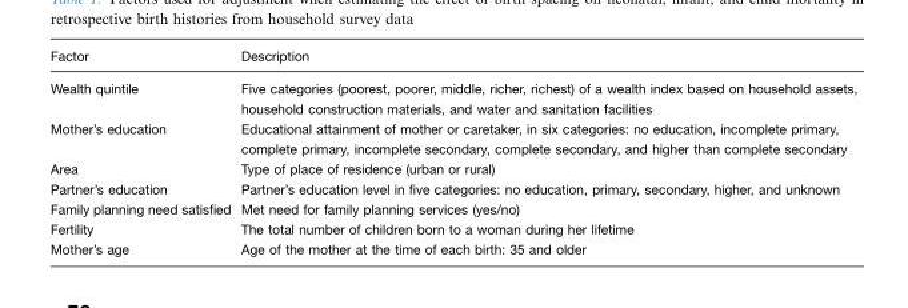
<table><thead><tr><td>Factor</td><td>Description</td></tr></thead><tbody><tr><td>Wealth quintile</td><td>Five categories (poorest, poorer, middle, richer, richest) of a wealth index based on household assets, household construction materials, and water and sanitation facilities</td></tr><tr><td>Mother’s education</td><td>Educational attainment of mother or caretaker, in six categories: no education, incomplete primary, complete primary, incomplete secondary, complete secondary, and higher than complete secondary</td></tr><tr><td>Area</td><td>Type of place of residence (urban or rural)</td></tr><tr><td>Partner’s education</td><td>Partner’s education level in five categories: no education, primary, secondary, higher, and unknown</td></tr><tr><td>Family planning need satisfied</td><td>Met need for family planning services (yes/no)</td></tr><tr><td>Fertility</td><td>The total number of children born to a woman during her lifetime</td></tr><tr><td>Mother’s age</td><td>Age of the mother at the time of each birth: 35 and older</td></tr></tbody></table>